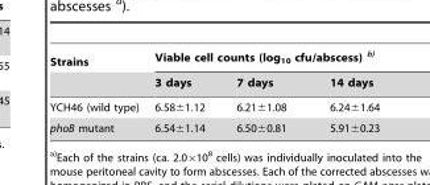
<table><thead><tr><td rowspan="2">Strains</td><td colspan="3">Viable cell counts (log<sub>10</sub> cfu/abscess) b)</td></tr><tr><td>3 days</td><td>7 days</td><td>14 days</td></tr></thead><tbody><tr><td>YCH46 (wild type)</td><td>6.58±1.12</td><td>6.21±1.08</td><td>6.24±1.64</td></tr><tr><td>phoB mutant</td><td>6.54±1.14</td><td>6.50±0.81</td><td>5.91±0.23</td></tr></tbody></table>